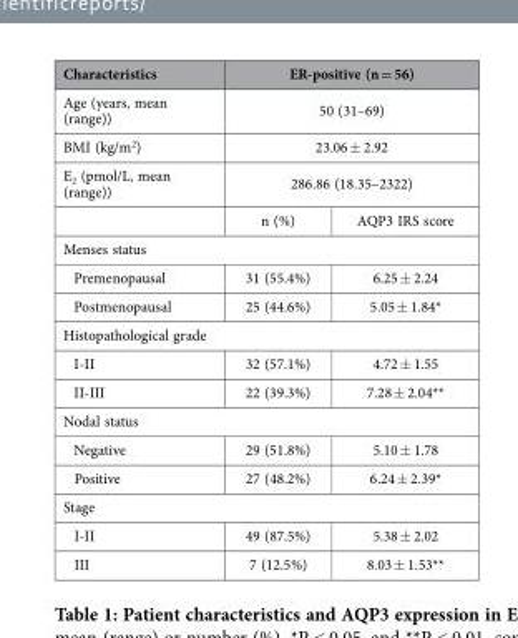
<table><thead><tr><td>Characteristics</td><td colspan="2">ER-positive (n = 56)</td></tr></thead><tbody><tr><td>Age (years, mean (range))</td><td colspan="2">50 (31–69)</td></tr><tr><td>BMI (kg/m<sup>2</sup>)</td><td colspan="2">23.06 ± 2.92</td></tr><tr><td rowspan="2">E<sub>2</sub> (pmol/L, mean (range))</td><td colspan="2">286.86 (18.35–2322)</td></tr><tr><td>n (%)</td><td>AQP3 IRS score</td></tr><tr><td colspan="3">Menses status</td></tr><tr><td>Premenopausal</td><td>31 (55.4%)</td><td>6.25 ± 2.24</td></tr><tr><td>Postmenopausal</td><td>25 (44.6%)</td><td>5.05 ± 1.84*</td></tr><tr><td colspan="3">Histopathological grade</td></tr><tr><td>I-II</td><td>32 (57.1%)</td><td>4.72 ± 1.55</td></tr><tr><td>II-III</td><td>22 (39.3%)</td><td>7.28 ± 2.04**</td></tr><tr><td colspan="3">Nodal status</td></tr><tr><td>Negative</td><td>29 (51.8%)</td><td>5.10 ± 1.78</td></tr><tr><td>Positive</td><td>27 (48.2%)</td><td>6.24 ± 2.39*</td></tr><tr><td colspan="3">Stage</td></tr><tr><td>I-II</td><td>49 (87.5%)</td><td>5.38 ± 2.02</td></tr><tr><td>III</td><td>7 (12.5%)</td><td>8.03 ± 1.53**</td></tr></tbody></table>